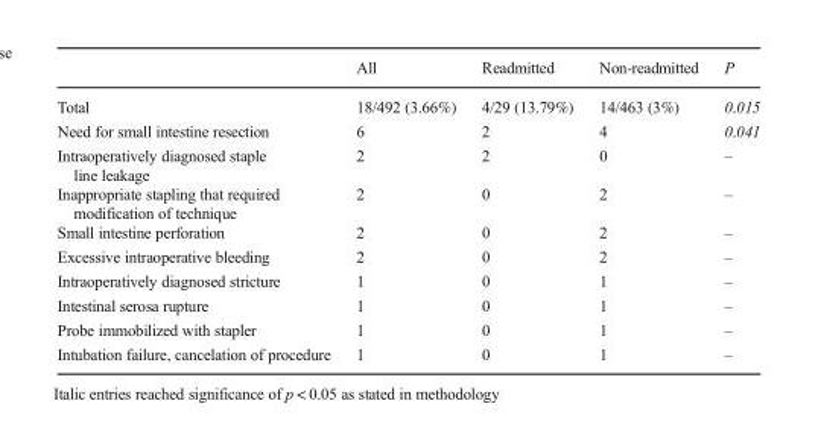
<table><thead><tr><td></td><td>All</td><td>Readmitted</td><td>Non-readmitted</td><td>P</td></tr></thead><tbody><tr><td>Total</td><td>18/492 (3.66%)</td><td>4/29 (13.79%)</td><td>14/463 (3%)</td><td>0.015</td></tr><tr><td>Need for small intestine resection</td><td>6</td><td>2</td><td>4</td><td>0.041</td></tr><tr><td>Intraoperatively diagnosed staple line leakage</td><td>2</td><td>2</td><td>0</td><td>–</td></tr><tr><td>Inappropriate stapling that required modification of technique</td><td>2</td><td>0</td><td>2</td><td>–</td></tr><tr><td>Small intestine perforation</td><td>2</td><td>0</td><td>2</td><td>–</td></tr><tr><td>Excessive intraoperative bleeding</td><td>2</td><td>0</td><td>2</td><td>–</td></tr><tr><td>Intraoperatively diagnosed stricture</td><td>1</td><td>0</td><td>1</td><td>–</td></tr><tr><td>Intestinal serosa rupture</td><td>1</td><td>0</td><td>1</td><td>–</td></tr><tr><td>Probe immobilized with stapler</td><td>1</td><td>0</td><td>1</td><td>–</td></tr><tr><td>Intubation failure, cancelation of procedure</td><td>1</td><td>0</td><td>1</td><td>–</td></tr></tbody></table>